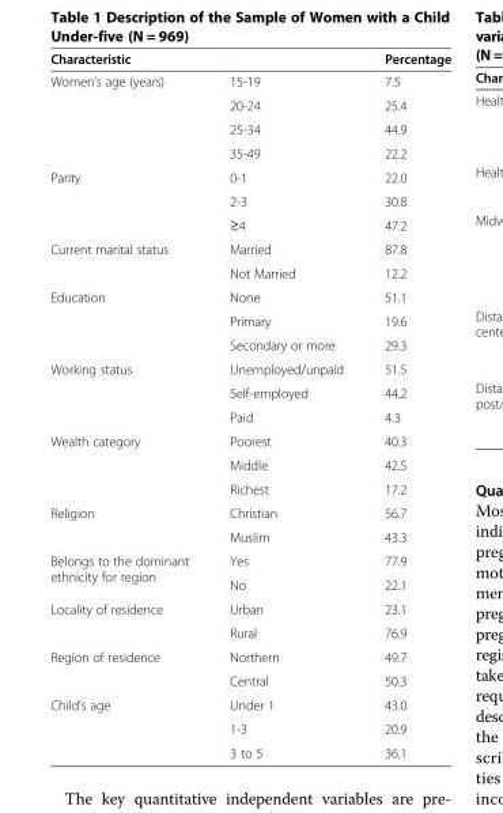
<table><thead><tr><td>Characteristic</td><td></td><td>Percentage</td></tr></thead><tbody><tr><td rowspan="4">Women’s age (years)</td><td>15-19</td><td>7.5</td></tr><tr><td>20-24</td><td>25.4</td></tr><tr><td>25-34</td><td>44.9</td></tr><tr><td>35-49</td><td>22.2</td></tr><tr><td rowspan="3">Parity</td><td>0-1</td><td>22.0</td></tr><tr><td>2-3</td><td>30.8</td></tr><tr><td>≥4</td><td>47.2</td></tr><tr><td rowspan="2">Current marital status</td><td>Married</td><td>87.8</td></tr><tr><td>Not Married</td><td>12.2</td></tr><tr><td rowspan="3">Education</td><td>None</td><td>51.1</td></tr><tr><td>Primary</td><td>19.6</td></tr><tr><td>Secondary or more</td><td>29.3</td></tr><tr><td rowspan="3">Working status</td><td>Unemployed/unpaid</td><td>51.5</td></tr><tr><td>Self-employed</td><td>44.2</td></tr><tr><td>Paid</td><td>4.3</td></tr><tr><td rowspan="3">Wealth category</td><td>Poorest</td><td>40.3</td></tr><tr><td>Middle</td><td>42.5</td></tr><tr><td>Richest</td><td>17.2</td></tr><tr><td rowspan="2">Religion</td><td>Christian</td><td>56.7</td></tr><tr><td>Muslim</td><td>43.3</td></tr><tr><td rowspan="2">Belongs to the dominant ethnicity for region</td><td>Yes</td><td>77.9</td></tr><tr><td>No</td><td>22.1</td></tr><tr><td rowspan="2">Locality of residence</td><td>Urban</td><td>23.1</td></tr><tr><td>Rural</td><td>76.9</td></tr><tr><td rowspan="2">Region of residence</td><td>Northern</td><td>49.7</td></tr><tr><td>Central</td><td>50.3</td></tr><tr><td rowspan="3">Child’s age</td><td>Under 1</td><td>43.0</td></tr><tr><td>1-3</td><td>20.9</td></tr><tr><td>3 to 5</td><td>36.1</td></tr></tbody></table>